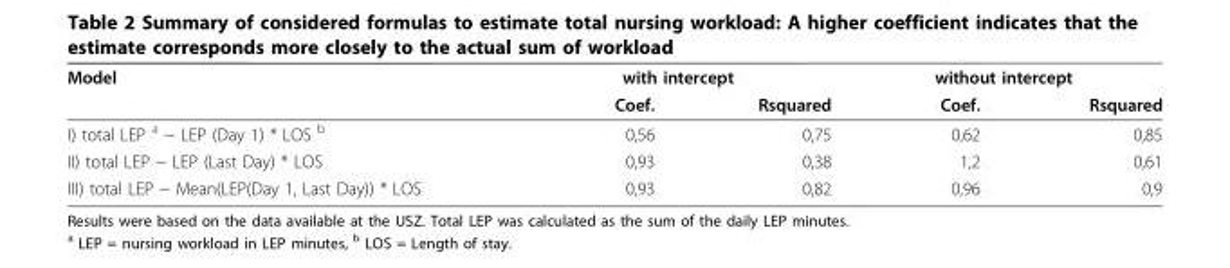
<table><thead><tr><td rowspan="2">Model</td><td colspan="2">with intercept</td><td colspan="2">without intercept</td></tr><tr><td>Coef.</td><td>Rsquared</td><td>Coef.</td><td>Rsquared</td></tr></thead><tbody><tr><td>I) total LEP <sup>a</sup> ~ LEP (Day 1) * LOS <sup>b</sup></td><td>0,56</td><td>0,75</td><td>0,62</td><td>0,85</td></tr><tr><td>II) total LEP ~ LEP (Last Day) * LOS</td><td>0,93</td><td>0,38</td><td>1,2</td><td>0,61</td></tr><tr><td>III) total LEP ~ Mean(LEP(Day 1, Last Day)) * LOS</td><td>0,93</td><td>0,82</td><td>0,96</td><td>0,9</td></tr></tbody></table>